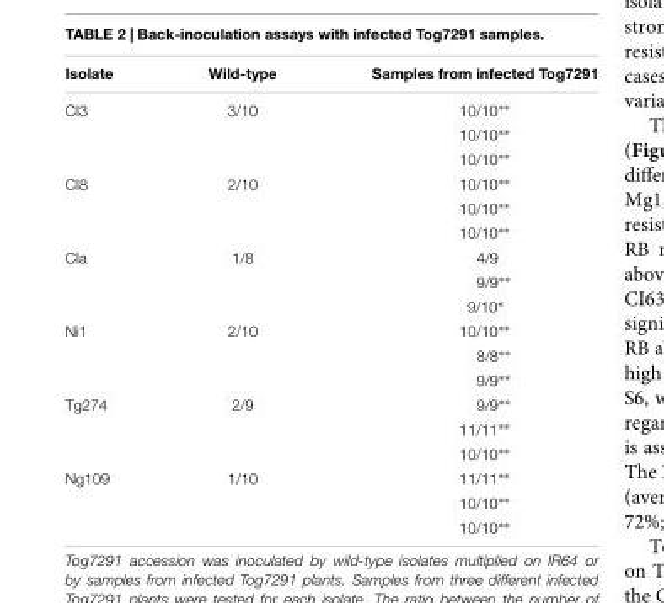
<table><thead><tr><td>Isolate</td><td>Wild-type</td><td>Samples from infected Tog7291</td></tr></thead><tbody><tr><td rowspan="3">CI3</td><td>3/10</td><td>10/10∗∗</td></tr><tr><td></td><td>10/10∗∗</td></tr><tr><td></td><td>10/10∗∗</td></tr><tr><td rowspan="3">CI8</td><td>2/10</td><td>10/10∗∗</td></tr><tr><td></td><td>10/10∗∗</td></tr><tr><td></td><td>10/10∗∗</td></tr><tr><td rowspan="3">CIa</td><td>1/8</td><td>4/9</td></tr><tr><td></td><td>9/9∗∗</td></tr><tr><td></td><td>9/10∗</td></tr><tr><td rowspan="3">Ni1</td><td>2/10</td><td>10/10∗∗</td></tr><tr><td></td><td>8/8∗∗</td></tr><tr><td></td><td>9/9∗∗</td></tr><tr><td rowspan="3">Tg274</td><td>2/9</td><td>9/9∗∗</td></tr><tr><td></td><td>11/11∗∗</td></tr><tr><td></td><td>10/10∗∗</td></tr><tr><td rowspan="3">Ng109</td><td>1/10</td><td>11/11∗∗</td></tr><tr><td></td><td>10/10∗∗</td></tr><tr><td></td><td>10/10∗∗</td></tr></tbody></table>